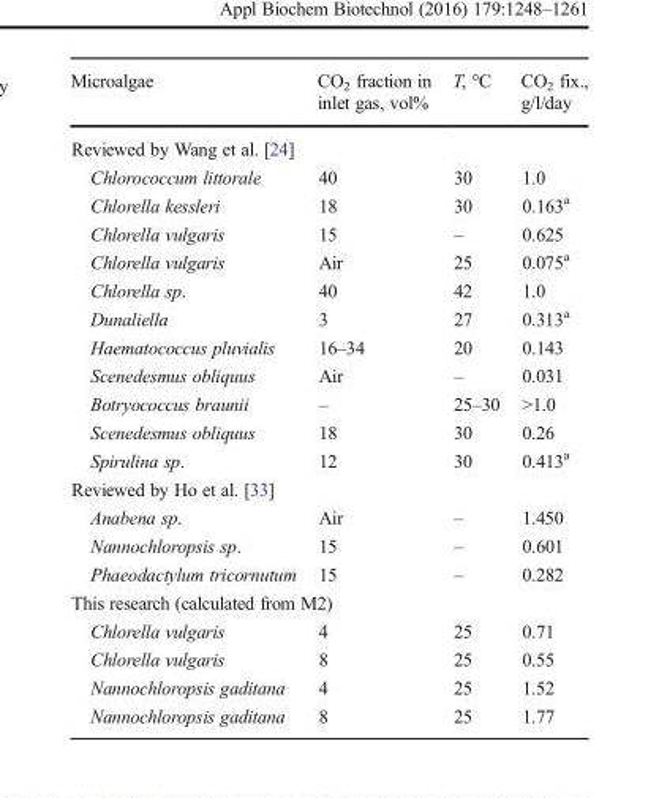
<table><thead><tr><td>Microalgae</td><td>CO<sub>2</sub> fraction in inlet gas, vol%</td><td>T, °C</td><td>CO<sub>2</sub> fix., g/l/day</td></tr></thead><tbody><tr><td colspan="4">Reviewed by Wang et al. [24]</td></tr><tr><td>Chlorococcum littorale</td><td>40</td><td>30</td><td>1.0</td></tr><tr><td>Chlorella kessleri</td><td>18</td><td>30</td><td>0.163<sup>a</sup></td></tr><tr><td>Chlorella vulgaris</td><td>15</td><td>–</td><td>0.625</td></tr><tr><td>Chlorella vulgaris</td><td>Air</td><td>25</td><td>0.075<sup>a</sup></td></tr><tr><td>Chlorella sp.</td><td>40</td><td>42</td><td>1.0</td></tr><tr><td>Dunaliella</td><td>3</td><td>27</td><td>0.313<sup>a</sup></td></tr><tr><td>Haematococcus pluvialis</td><td>16–34</td><td>20</td><td>0.143</td></tr><tr><td>Scenedesmus obliquus</td><td>Air</td><td>–</td><td>0.031</td></tr><tr><td>Botryococcus braunii</td><td>–</td><td>25–30</td><td>&gt;1.0</td></tr><tr><td>Scenedesmus obliquus</td><td>18</td><td>30</td><td>0.26</td></tr><tr><td>Spirulina sp.</td><td>12</td><td>30</td><td>0.413<sup>a</sup></td></tr><tr><td colspan="4">Reviewed by Ho et al. [33]</td></tr><tr><td>Anabena sp.</td><td>Air</td><td>–</td><td>1.450</td></tr><tr><td>Nannochloropsis sp.</td><td>15</td><td>–</td><td>0.601</td></tr><tr><td>Phaeodactylum tricornutum</td><td>15</td><td>–</td><td>0.282</td></tr><tr><td colspan="4">This research (calculated from M2)</td></tr><tr><td>Chlorella vulgaris</td><td>4</td><td>25</td><td>0.71</td></tr><tr><td>Chlorella vulgaris</td><td>8</td><td>25</td><td>0.55</td></tr><tr><td>Nannochloropsis gaditana</td><td>4</td><td>25</td><td>1.52</td></tr><tr><td>Nannochloropsis gaditana</td><td>8</td><td>25</td><td>1.77</td></tr></tbody></table>